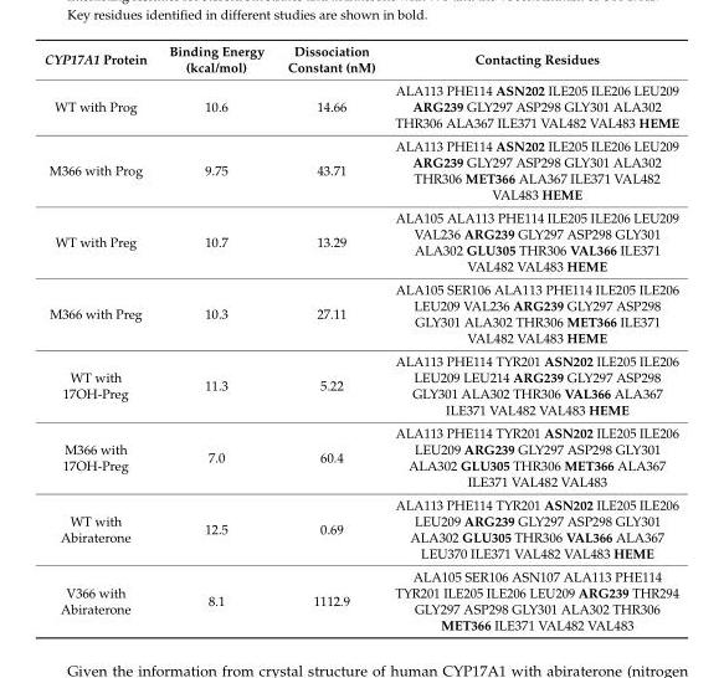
<table><thead><tr><td>CYP17A1 Protein</td><td>Binding Energy (kcal/mol)</td><td>Dissociation Constant (nM)</td><td>Contacting Residues</td></tr></thead><tbody><tr><td>WT with Prog</td><td>10.6</td><td>14.66</td><td>ALA113 PHE114 ASN202 ILE205 ILE206 LEU209 ARG239 GLY297 ASP298 GLY301 ALA302 THR306 ALA367 ILE371 VAL482 VAL483 HEME</td></tr><tr><td>M366 with Prog</td><td>9.75</td><td>43.71</td><td>ALA113 PHE114 ASN202 ILE205 ILE206 LEU209 ARG239 GLY297 ASP298 GLY301 ALA302 THR306 MET366 ALA367 ILE371 VAL482 VAL483 HEME</td></tr><tr><td>WT with Preg</td><td>10.7</td><td>13.29</td><td>ALA105 ALA113 PHE114 ILE205 ILE206 LEU209 VAL236 ARG239 GLY297 ASP298 GLY301 ALA302 GLU305 THR306 VAL366 ILE371 VAL482 VAL483 HEME</td></tr><tr><td>M366 with Preg</td><td>10.3</td><td>27.11</td><td>ALA105 SER106 ALA113 PHE114 ILE205 ILE206 LEU209 VAL236 ARG239 GLY297 ASP298 GLY301 ALA302 THR306 MET366 ILE371 VAL482 VAL483 HEME</td></tr><tr><td>WT with 17OH-Preg</td><td>11.3</td><td>5.22</td><td>ALA113 PHE114 TYR201 ASN202 ILE205 ILE206 LEU209 LEU214 ARG239 GLY297 ASP298 GLY301 ALA302 THR306 VAL366 ALA367 ILE371 VAL482 VAL483 HEME</td></tr><tr><td>M366 with 17OH-Preg</td><td>7.0</td><td>60.4</td><td>ALA113 PHE114 TYR201 ASN202 ILE205 ILE206 LEU209 ARG239 GLY297 ASP298 GLY301 ALA302 GLU305 THR306 MET366 ALA367 ILE371 VAL482 VAL483</td></tr><tr><td>WT with Abiraterone</td><td>12.5</td><td>0.69</td><td>ALA113 PHE114 TYR201 ASN202 ILE205 ILE206 LEU209 ARG239 GLY297 ASP298 GLY301 ALA302 GLU305 THR306 VAL366 ALA367 LEU370 ILE371 VAL482 VAL483 HEME</td></tr><tr><td>V366 with Abiraterone</td><td>8.1</td><td>1112.9</td><td>ALA105 SER106 ASN107 ALA113 PHE114 TYR201 ILE205 ILE206 LEU209 ARG239 THR294 GLY297 ASP298 GLY301 ALA302 THR306 MET366 ILE371 VAL482 VAL483</td></tr></tbody></table>